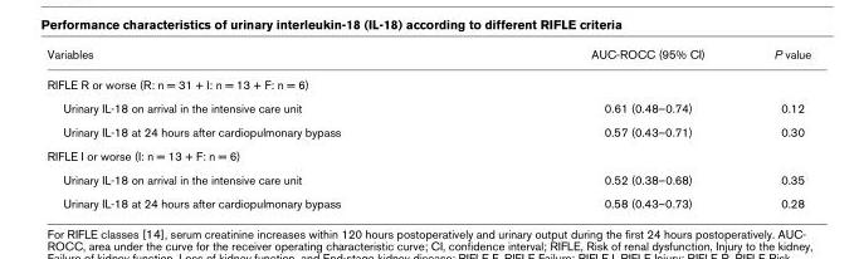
<table><thead><tr><td>Variables</td><td>AUC-ROCC (95% CI)</td><td>P value</td></tr></thead><tbody><tr><td colspan="3">RIFLE R or worse (R: n = 31 + I: n = 13 + F: n = 6)</td></tr><tr><td>Urinary IL-18 on arrival in the intensive care unit</td><td>0.61 (0.48–0.74)</td><td>0.12</td></tr><tr><td>Urinary IL-18 at 24 hours after cardiopulmonary bypass</td><td>0.57 (0.43–0.71)</td><td>0.30</td></tr><tr><td colspan="3">RIFLE I or worse (I: n = 13 + F: n = 6)</td></tr><tr><td>Urinary IL-18 on arrival in the intensive care unit</td><td>0.52 (0.38–0.68)</td><td>0.35</td></tr><tr><td>Urinary IL-18 at 24 hours after cardiopulmonary bypass</td><td>0.58 (0.43–0.73)</td><td>0.28</td></tr></tbody></table>